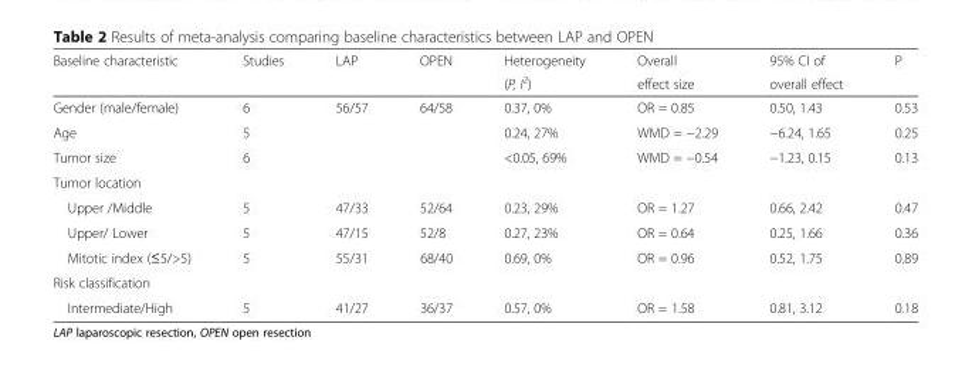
<table><thead><tr><td rowspan="2">Baseline characteristic</td><td rowspan="2">Studies</td><td rowspan="2">LAP</td><td rowspan="2">OPEN</td><td rowspan="2">Heterogeneity (P, I<sup>2</sup>)</td><td rowspan="2">Overall effect size</td><td rowspan="2">95% CI of overall effect</td><td rowspan="2">P</td></tr><tr></tr></thead><tbody><tr><td>Gender (male/female)</td><td>6</td><td>56/57</td><td>64/58</td><td>0.37, 0%</td><td>OR = 0.85</td><td>0.50, 1.43</td><td>0.53</td></tr><tr><td>Age</td><td>5</td><td></td><td></td><td>0.24, 27%</td><td>WMD = −2.29</td><td>−6.24, 1.65</td><td>0.25</td></tr><tr><td>Tumor size</td><td>6</td><td></td><td></td><td>&lt;0.05, 69%</td><td>WMD = −0.54</td><td>−1.23, 0.15</td><td>0.13</td></tr><tr><td colspan="8">Tumor location</td></tr><tr><td>Upper /Middle</td><td>5</td><td>47/33</td><td>52/64</td><td>0.23, 29%</td><td>OR = 1.27</td><td>0.66, 2.42</td><td>0.47</td></tr><tr><td>Upper/ Lower</td><td>5</td><td>47/15</td><td>52/8</td><td>0.27, 23%</td><td>OR = 0.64</td><td>0.25, 1.66</td><td>0.36</td></tr><tr><td>Mitotic index (≤5/&gt;5)</td><td>5</td><td>55/31</td><td>68/40</td><td>0.69, 0%</td><td>OR = 0.96</td><td>0.52, 1.75</td><td>0.89</td></tr><tr><td colspan="8">Risk classification</td></tr><tr><td>Intermediate/High</td><td>5</td><td>41/27</td><td>36/37</td><td>0.57, 0%</td><td>OR = 1.58</td><td>0.81, 3.12</td><td>0.18</td></tr></tbody></table>